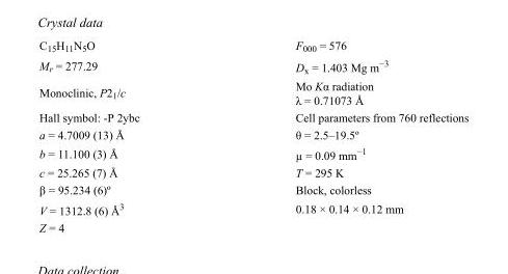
<table><tbody><tr><td>C<sub>15</sub>H<sub>11</sub>N<sub>5</sub>O</td><td>F<sub>000</sub> = 576</td></tr><tr><td>M<sub>r</sub> = 277.29</td><td>D<sub>x</sub> = 1.403 Mg m<sup>−3</sup></td></tr><tr><td>Monoclinic, P2<sub>1</sub>/c</td><td>Mo Kα radiation λ = 0.71073 Å</td></tr><tr><td>Hall symbol: -P 2ybc</td><td>Cell parameters from 760 reflections</td></tr><tr><td>a = 4.7009 (13) Å</td><td>θ = 2.5–19.5º</td></tr><tr><td>b = 11.100 (3) Å</td><td>µ = 0.09 mm<sup>−1</sup></td></tr><tr><td>c = 25.265 (7) Å</td><td>T = 295 K</td></tr><tr><td>β = 95.234 (6)º</td><td>Block, colorless</td></tr><tr><td>V = 1312.8 (6) Å<sup>3</sup></td><td>0.18 × 0.14 × 0.12 mm</td></tr><tr><td>Z = 4</td><td></td></tr></tbody></table>